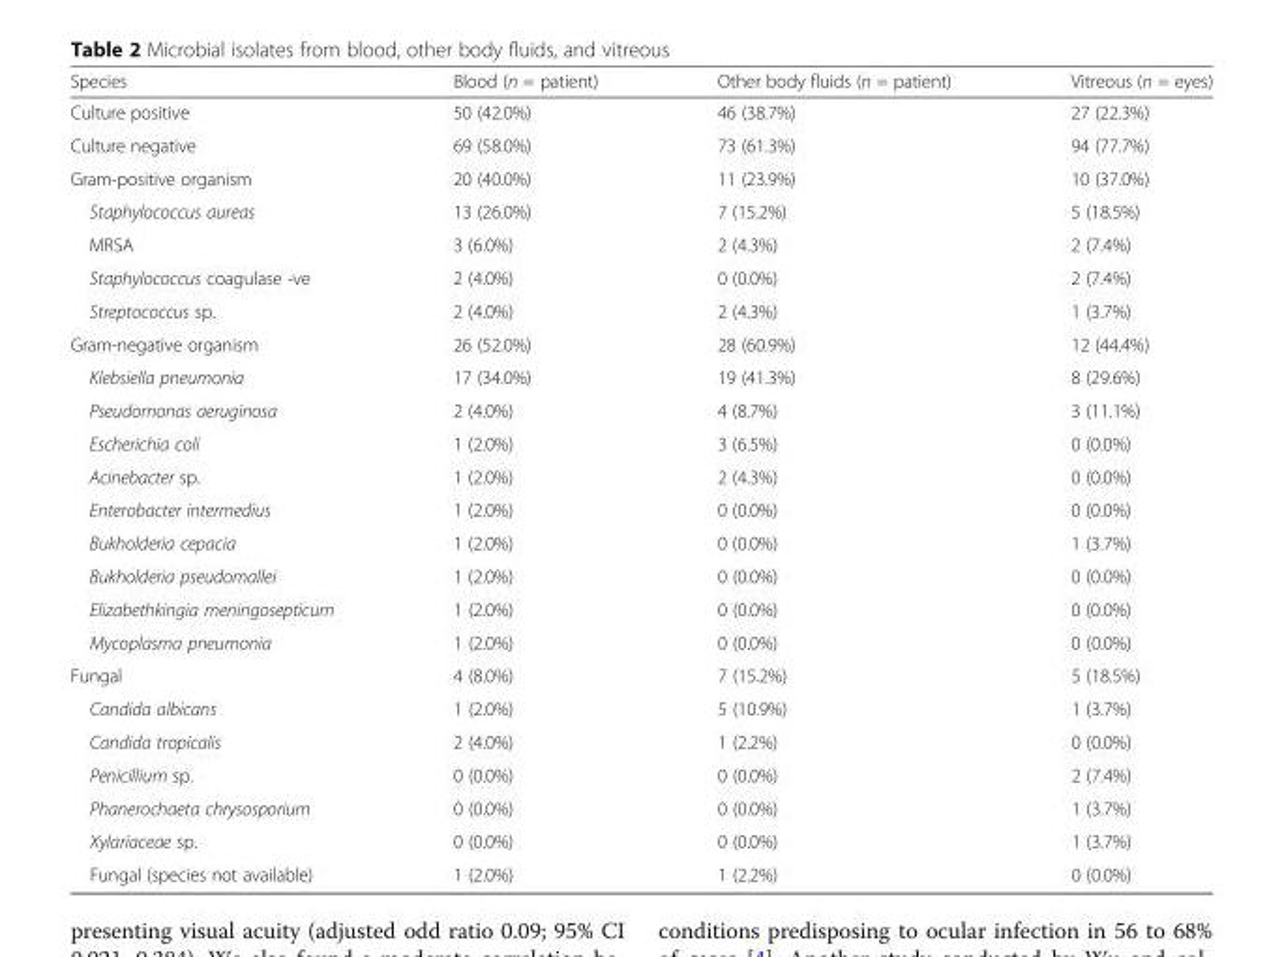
<table><thead><tr><td>Species</td><td>Blood (n = patient)</td><td>Other body fluids (n = patient)</td><td>Vitreous (n = eyes)</td></tr></thead><tbody><tr><td>Culture positive</td><td>50 (42.0%)</td><td>46 (38.7%)</td><td>27 (22.3%)</td></tr><tr><td>Culture negative</td><td>69 (58.0%)</td><td>73 (61.3%)</td><td>94 (77.7%)</td></tr><tr><td>Gram-positive organism</td><td>20 (40.0%)</td><td>11 (23.9%)</td><td>10 (37.0%)</td></tr><tr><td>Staphylococcus aureas</td><td>13 (26.0%)</td><td>7 (15.2%)</td><td>5 (18.5%)</td></tr><tr><td>MRSA</td><td>3 (6.0%)</td><td>2 (4.3%)</td><td>2 (7.4%)</td></tr><tr><td>Staphylococcus coagulase -ve</td><td>2 (4.0%)</td><td>0 (0.0%)</td><td>2 (7.4%)</td></tr><tr><td>Streptococcus sp.</td><td>2 (4.0%)</td><td>2 (4.3%)</td><td>1 (3.7%)</td></tr><tr><td>Gram-negative organism</td><td>26 (52.0%)</td><td>28 (60.9%)</td><td>12 (44.4%)</td></tr><tr><td>Klebsiella pneumonia</td><td>17 (34.0%)</td><td>19 (41.3%)</td><td>8 (29.6%)</td></tr><tr><td>Pseudomonas aeruginosa</td><td>2 (4.0%)</td><td>4 (8.7%)</td><td>3 (11.1%)</td></tr><tr><td>Escherichia coli</td><td>1 (2.0%)</td><td>3 (6.5%)</td><td>0 (0.0%)</td></tr><tr><td>Acinebacter sp.</td><td>1 (2.0%)</td><td>2 (4.3%)</td><td>0 (0.0%)</td></tr><tr><td>Enterobacter intermedius</td><td>1 (2.0%)</td><td>0 (0.0%)</td><td>0 (0.0%)</td></tr><tr><td>Bukholderia cepacia</td><td>1 (2.0%)</td><td>0 (0.0%)</td><td>1 (3.7%)</td></tr><tr><td>Bukholderia pseudomallei</td><td>1 (2.0%)</td><td>0 (0.0%)</td><td>0 (0.0%)</td></tr><tr><td>Elizabethkingia meningosepticum</td><td>1 (2.0%)</td><td>0 (0.0%)</td><td>0 (0.0%)</td></tr><tr><td>Mycoplasma pneumonia</td><td>1 (2.0%)</td><td>0 (0.0%)</td><td>0 (0.0%)</td></tr><tr><td>Fungal</td><td>4 (8.0%)</td><td>7 (15.2%)</td><td>5 (18.5%)</td></tr><tr><td>Candida albicans</td><td>1 (2.0%)</td><td>5 (10.9%)</td><td>1 (3.7%)</td></tr><tr><td>Candida tropicalis</td><td>2 (4.0%)</td><td>1 (2.2%)</td><td>0 (0.0%)</td></tr><tr><td>Penicillium sp.</td><td>0 (0.0%)</td><td>0 (0.0%)</td><td>2 (7.4%)</td></tr><tr><td>Phanerochaeta chrysosporium</td><td>0 (0.0%)</td><td>0 (0.0%)</td><td>1 (3.7%)</td></tr><tr><td>Xylariaceae sp.</td><td>0 (0.0%)</td><td>0 (0.0%)</td><td>1 (3.7%)</td></tr><tr><td>Fungal (species not available)</td><td>1 (2.0%)</td><td>1 (2.2%)</td><td>0 (0.0%)</td></tr></tbody></table>